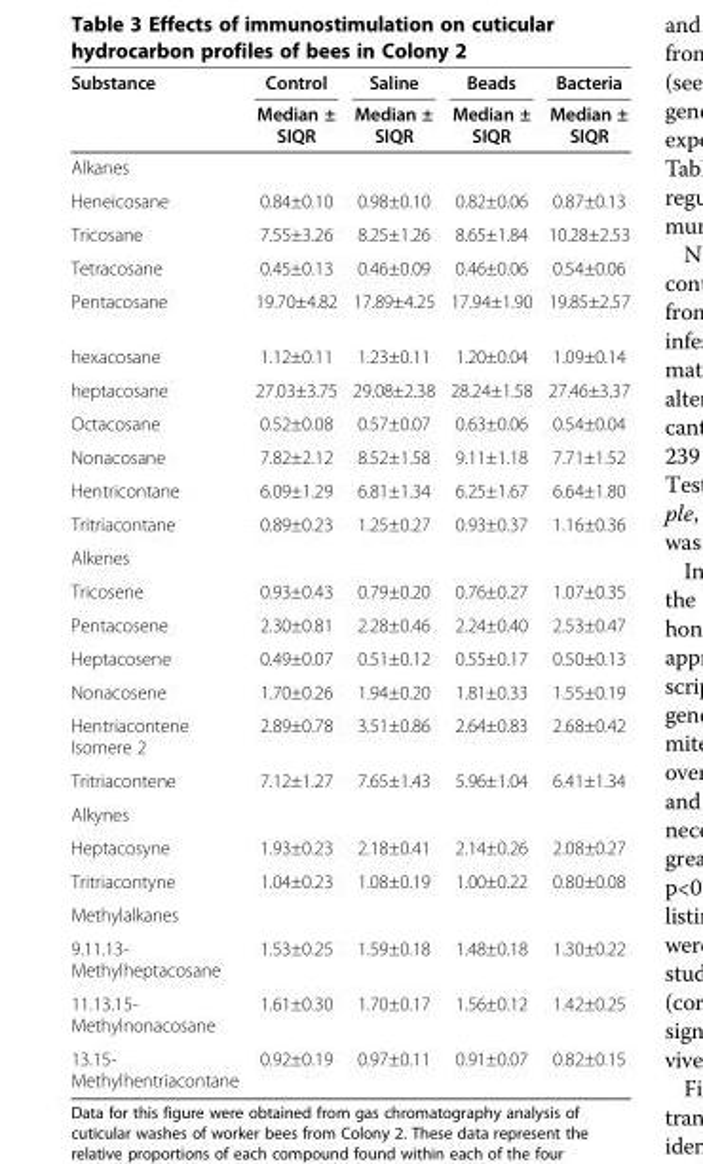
<table><thead><tr><td rowspan="2">Substance</td><td rowspan="2">Control Median ± SIQR</td><td rowspan="2">Saline Median ± SIQR</td><td rowspan="2">Beads Median ± SIQR</td><td rowspan="2">Bacteria Median ± SIQR</td></tr><tr></tr></thead><tbody><tr><td colspan="5">Alkanes</td></tr><tr><td>Heneicosane</td><td>0.84±0.10</td><td>0.98±0.10</td><td>0.82±0.06</td><td>0.87±0.13</td></tr><tr><td>Tricosane</td><td>7.55±3.26</td><td>8.25±1.26</td><td>8.65±1.84</td><td>10.28±2.53</td></tr><tr><td>Tetracosane</td><td>0.45±0.13</td><td>0.46±0.09</td><td>0.46±0.06</td><td>0.54±0.06</td></tr><tr><td>Pentacosane</td><td>19.70±4.82</td><td>17.89±4.25</td><td>17.94±1.90</td><td>19.85±2.57</td></tr><tr><td>hexacosane</td><td>1.12±0.11</td><td>1.23±0.11</td><td>1.20±0.04</td><td>1.09±0.14</td></tr><tr><td>heptacosane</td><td>27.03±3.75</td><td>29.08±2.38</td><td>28.24±1.58</td><td>27.46±3.37</td></tr><tr><td>Octacosane</td><td>0.52±0.08</td><td>0.57±0.07</td><td>0.63±0.06</td><td>0.54±0.04</td></tr><tr><td>Nonacosane</td><td>7.82±2.12</td><td>8.52±1.58</td><td>9.11±1.18</td><td>7.71±1.52</td></tr><tr><td>Hentricontane</td><td>6.09±1.29</td><td>6.81±1.34</td><td>6.25±1.67</td><td>6.64±1.80</td></tr><tr><td>Tritriacontane</td><td>0.89±0.23</td><td>1.25±0.27</td><td>0.93±0.37</td><td>1.16±0.36</td></tr><tr><td colspan="5">Alkenes</td></tr><tr><td>Tricosene</td><td>0.93±0.43</td><td>0.79±0.20</td><td>0.76±0.27</td><td>1.07±0.35</td></tr><tr><td>Pentacosene</td><td>2.30±0.81</td><td>2.28±0.46</td><td>2.24±0.40</td><td>2.53±0.47</td></tr><tr><td>Heptacosene</td><td>0.49±0.07</td><td>0.51±0.12</td><td>0.55±0.17</td><td>0.50±0.13</td></tr><tr><td>Nonacosene</td><td>1.70±0.26</td><td>1.94±0.20</td><td>1.81±0.33</td><td>1.55±0.19</td></tr><tr><td>Hentriacontene Isomere 2</td><td>2.89±0.78</td><td>3.51±0.86</td><td>2.64±0.83</td><td>2.68±0.42</td></tr><tr><td>Tritriacontene</td><td>7.12±1.27</td><td>7.65±1.43</td><td>5.96±1.04</td><td>6.41±1.34</td></tr><tr><td colspan="5">Alkynes</td></tr><tr><td>Heptacosyne</td><td>1.93±0.23</td><td>2.18±0.41</td><td>2.14±0.26</td><td>2.08±0.27</td></tr><tr><td>Tritriacontyne</td><td>1.04±0.23</td><td>1.08±0.19</td><td>1.00±0.22</td><td>0.80±0.08</td></tr><tr><td colspan="5">Methylalkanes</td></tr><tr><td>9.11.13- Methylheptacosane</td><td>1.53±0.25</td><td>1.59±0.18</td><td>1.48±0.18</td><td>1.30±0.22</td></tr><tr><td>11.13.15- Methylnonacosane</td><td>1.61±0.30</td><td>1.70±0.17</td><td>1.56±0.12</td><td>1.42±0.25</td></tr><tr><td>13.15- Methylhentriacontane</td><td>0.92±0.19</td><td>0.97±0.11</td><td>0.91±0.07</td><td>0.82±0.15</td></tr></tbody></table>